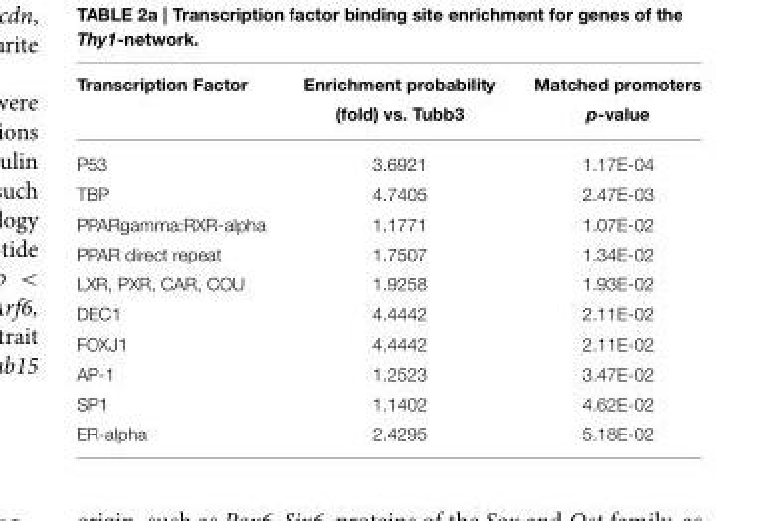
<table><thead><tr><td>Transcription Factor</td><td>Enrichment probability (fold) vs. Tubb3</td><td>Matched promoters p-value</td></tr></thead><tbody><tr><td>P53</td><td>3.6921</td><td>1.17E-04</td></tr><tr><td>TBP</td><td>4.7405</td><td>2.47E-03</td></tr><tr><td>PPARgamma:RXR-alpha</td><td>1.1771</td><td>1.07E-02</td></tr><tr><td>PPAR direct repeat</td><td>1.7507</td><td>1.34E-02</td></tr><tr><td>LXR, PXR, CAR, COU</td><td>1.9258</td><td>1.93E-02</td></tr><tr><td>DEC1</td><td>4.4442</td><td>2.11E-02</td></tr><tr><td>FOXJ1</td><td>4.4442</td><td>2.11E-02</td></tr><tr><td>AP-1</td><td>1.2523</td><td>3.47E-02</td></tr><tr><td>SP1</td><td>1.1402</td><td>4.62E-02</td></tr><tr><td>ER-alpha</td><td>2.4295</td><td>5.18E-02</td></tr></tbody></table>